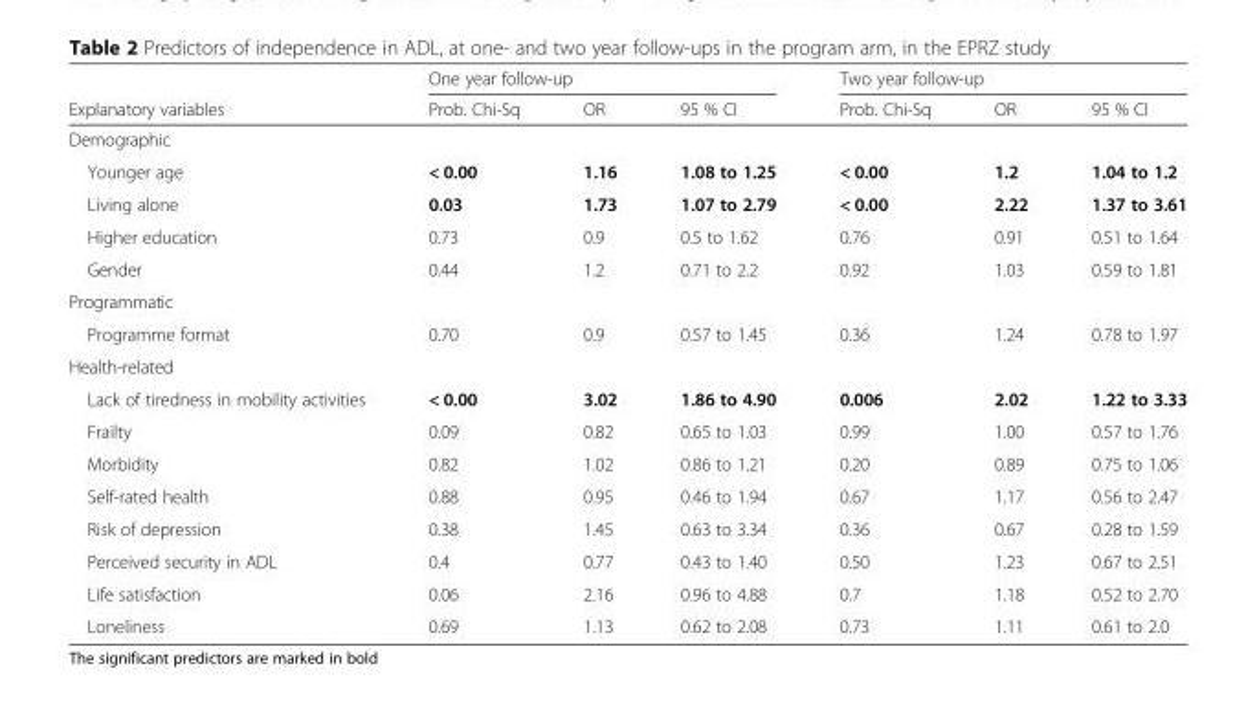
<table><thead><tr><td rowspan="2">Explanatory variables</td><td colspan="3">One year follow-up</td><td colspan="3">Two year follow-up</td></tr><tr><td>Prob. Chi-Sq</td><td>OR</td><td>95 % CI</td><td>Prob. Chi-Sq</td><td>OR</td><td>95 % CI</td></tr></thead><tbody><tr><td colspan="7">Demographic</td></tr><tr><td>Younger age</td><td>&lt; 0.00</td><td>1.16</td><td>1.08 to 1.25</td><td>&lt; 0.00</td><td>1.2</td><td>1.04 to 1.2</td></tr><tr><td>Living alone</td><td>0.03</td><td>1.73</td><td>1.07 to 2.79</td><td>&lt; 0.00</td><td>2.22</td><td>1.37 to 3.61</td></tr><tr><td>Higher education</td><td>0.73</td><td>0.9</td><td>0.5 to 1.62</td><td>0.76</td><td>0.91</td><td>0.51 to 1.64</td></tr><tr><td>Gender</td><td>0.44</td><td>1.2</td><td>0.71 to 2.2</td><td>0.92</td><td>1.03</td><td>0.59 to 1.81</td></tr><tr><td colspan="7">Programmatic</td></tr><tr><td>Programme format</td><td>0.70</td><td>0.9</td><td>0.57 to 1.45</td><td>0.36</td><td>1.24</td><td>0.78 to 1.97</td></tr><tr><td colspan="7">Health-related</td></tr><tr><td>Lack of tiredness in mobility activities</td><td>&lt; 0.00</td><td>3.02</td><td>1.86 to 4.90</td><td>0.006</td><td>2.02</td><td>1.22 to 3.33</td></tr><tr><td>Frailty</td><td>0.09</td><td>0.82</td><td>0.65 to 1.03</td><td>0.99</td><td>1.00</td><td>0.57 to 1.76</td></tr><tr><td>Morbidity</td><td>0.82</td><td>1.02</td><td>0.86 to 1.21</td><td>0.20</td><td>0.89</td><td>0.75 to 1.06</td></tr><tr><td>Self-rated health</td><td>0.88</td><td>0.95</td><td>0.46 to 1.94</td><td>0.67</td><td>1.17</td><td>0.56 to 2.47</td></tr><tr><td>Risk of depression</td><td>0.38</td><td>1.45</td><td>0.63 to 3.34</td><td>0.36</td><td>0.67</td><td>0.28 to 1.59</td></tr><tr><td>Perceived security in ADL</td><td>0.4</td><td>0.77</td><td>0.43 to 1.40</td><td>0.50</td><td>1.23</td><td>0.67 to 2.51</td></tr><tr><td>Life satisfaction</td><td>0.06</td><td>2.16</td><td>0.96 to 4.88</td><td>0.7</td><td>1.18</td><td>0.52 to 2.70</td></tr><tr><td>Loneliness</td><td>0.69</td><td>1.13</td><td>0.62 to 2.08</td><td>0.73</td><td>1.11</td><td>0.61 to 2.0</td></tr></tbody></table>